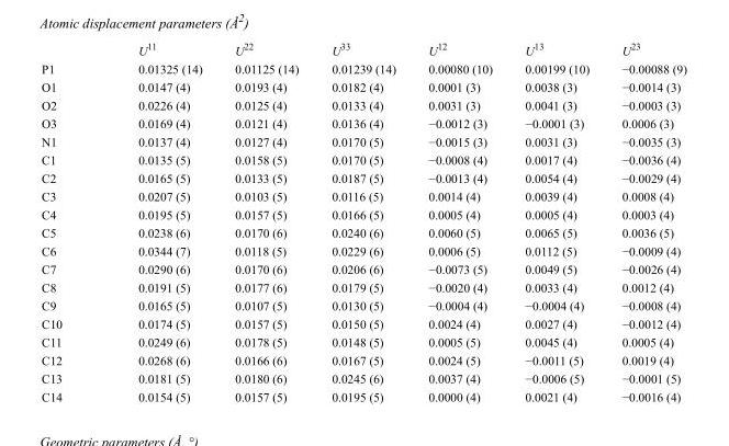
<table><thead><tr><td></td><td>U<sup>11</sup></td><td>U<sup>22</sup></td><td>U<sup>33</sup></td><td>U<sup>12</sup></td><td>U<sup>13</sup></td><td>U<sup>23</sup></td></tr></thead><tbody><tr><td>P1</td><td>0.01325 (14)</td><td>0.01125 (14)</td><td>0.01239 (14)</td><td>0.00080 (10)</td><td>0.00199 (10)</td><td>−0.00088 (9)</td></tr><tr><td>O1</td><td>0.0147 (4)</td><td>0.0193 (4)</td><td>0.0182 (4)</td><td>0.0001 (3)</td><td>0.0038 (3)</td><td>−0.0014 (3)</td></tr><tr><td>O2</td><td>0.0226 (4)</td><td>0.0125 (4)</td><td>0.0133 (4)</td><td>0.0031 (3)</td><td>0.0041 (3)</td><td>−0.0003 (3)</td></tr><tr><td>O3</td><td>0.0169 (4)</td><td>0.0121 (4)</td><td>0.0136 (4)</td><td>−0.0012 (3)</td><td>−0.0001 (3)</td><td>0.0006 (3)</td></tr><tr><td>N1</td><td>0.0137 (4)</td><td>0.0127 (4)</td><td>0.0170 (5)</td><td>−0.0015 (3)</td><td>0.0031 (3)</td><td>−0.0035 (3)</td></tr><tr><td>C1</td><td>0.0135 (5)</td><td>0.0158 (5)</td><td>0.0170 (5)</td><td>−0.0008 (4)</td><td>0.0017 (4)</td><td>−0.0036 (4)</td></tr><tr><td>C2</td><td>0.0165 (5)</td><td>0.0133 (5)</td><td>0.0187 (5)</td><td>−0.0013 (4)</td><td>0.0054 (4)</td><td>−0.0029 (4)</td></tr><tr><td>C3</td><td>0.0207 (5)</td><td>0.0103 (5)</td><td>0.0116 (5)</td><td>0.0014 (4)</td><td>0.0039 (4)</td><td>0.0008 (4)</td></tr><tr><td>C4</td><td>0.0195 (5)</td><td>0.0157 (5)</td><td>0.0166 (5)</td><td>0.0005 (4)</td><td>0.0005 (4)</td><td>0.0003 (4)</td></tr><tr><td>C5</td><td>0.0238 (6)</td><td>0.0170 (6)</td><td>0.0240 (6)</td><td>0.0060 (5)</td><td>0.0065 (5)</td><td>0.0036 (5)</td></tr><tr><td>C6</td><td>0.0344 (7)</td><td>0.0118 (5)</td><td>0.0229 (6)</td><td>0.0006 (5)</td><td>0.0112 (5)</td><td>−0.0009 (4)</td></tr><tr><td>C7</td><td>0.0290 (6)</td><td>0.0170 (6)</td><td>0.0206 (6)</td><td>−0.0073 (5)</td><td>0.0049 (5)</td><td>−0.0026 (4)</td></tr><tr><td>C8</td><td>0.0191 (5)</td><td>0.0177 (6)</td><td>0.0179 (5)</td><td>−0.0020 (4)</td><td>0.0033 (4)</td><td>0.0012 (4)</td></tr><tr><td>C9</td><td>0.0165 (5)</td><td>0.0107 (5)</td><td>0.0130 (5)</td><td>−0.0004 (4)</td><td>−0.0004 (4)</td><td>−0.0008 (4)</td></tr><tr><td>C10</td><td>0.0174 (5)</td><td>0.0157 (5)</td><td>0.0150 (5)</td><td>0.0024 (4)</td><td>0.0027 (4)</td><td>−0.0012 (4)</td></tr><tr><td>C11</td><td>0.0249 (6)</td><td>0.0178 (5)</td><td>0.0148 (5)</td><td>0.0005 (5)</td><td>0.0045 (4)</td><td>0.0005 (4)</td></tr><tr><td>C12</td><td>0.0268 (6)</td><td>0.0166 (6)</td><td>0.0167 (5)</td><td>0.0024 (5)</td><td>−0.0011 (5)</td><td>0.0019 (4)</td></tr><tr><td>C13</td><td>0.0181 (5)</td><td>0.0180 (6)</td><td>0.0245 (6)</td><td>0.0037 (4)</td><td>−0.0006 (5)</td><td>−0.0001 (5)</td></tr><tr><td>C14</td><td>0.0154 (5)</td><td>0.0157 (5)</td><td>0.0195 (5)</td><td>0.0000 (4)</td><td>0.0021 (4)</td><td>−0.0016 (4)</td></tr></tbody></table>